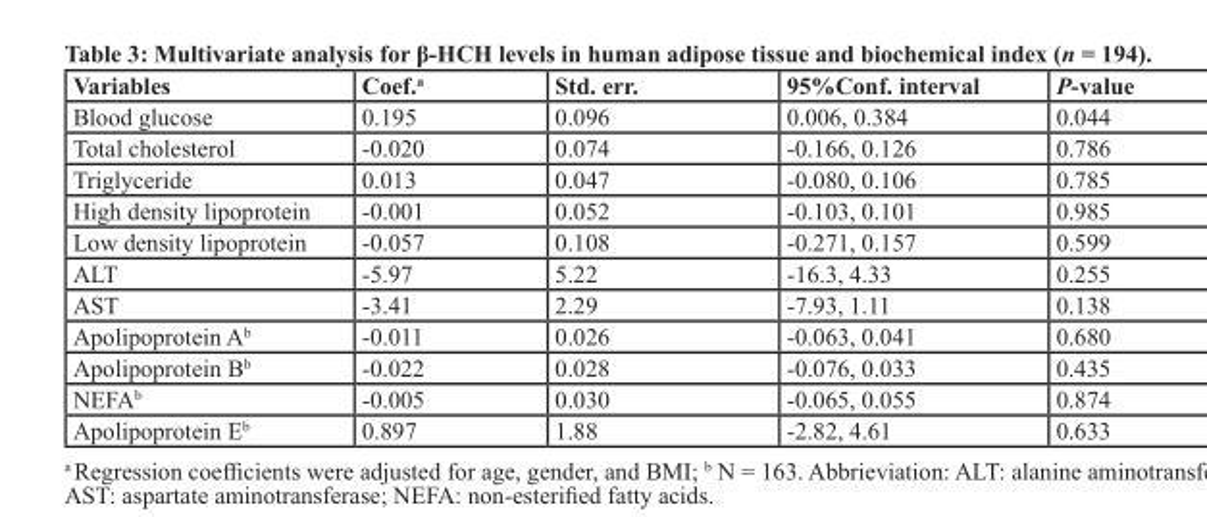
<table><thead><tr><td>Variables</td><td>coef.<sup>a</sup></td><td>std. err.</td><td>95%conf. interval</td><td>P-value</td></tr></thead><tbody><tr><td>Blood glucose</td><td>0.195</td><td>0.096</td><td>0.006, 0.384</td><td>0.044</td></tr><tr><td>Total cholesterol</td><td>-0.020</td><td>0.074</td><td>-0.166, 0.126</td><td>0.786</td></tr><tr><td>Triglyceride</td><td>0.013</td><td>0.047</td><td>-0.080, 0.106</td><td>0.785</td></tr><tr><td>High density lipoprotein</td><td>-0.001</td><td>0.052</td><td>-0.103, 0.101</td><td>0.985</td></tr><tr><td>Low density lipoprotein</td><td>-0.057</td><td>0.108</td><td>-0.271, 0.157</td><td>0.599</td></tr><tr><td>ALT</td><td>-5.97</td><td>5.22</td><td>-16.3, 4.33</td><td>0.255</td></tr><tr><td>AST</td><td>-3.41</td><td>2.29</td><td>-7.93, 1.11</td><td>0.138</td></tr><tr><td>Apolipoprotein A<sup>b</sup></td><td>-0.011</td><td>0.026</td><td>-0.063, 0.041</td><td>0.680</td></tr><tr><td>Apolipoprotein B<sup>b</sup></td><td>-0.022</td><td>0.028</td><td>-0.076, 0.033</td><td>0.435</td></tr><tr><td>NEFA<sup>b</sup></td><td>-0.005</td><td>0.030</td><td>-0.065, 0.055</td><td>0.874</td></tr><tr><td>Apolipoprotein E<sup>b</sup></td><td>0.897</td><td>1.88</td><td>-2.82, 4.61</td><td>0.633</td></tr></tbody></table>